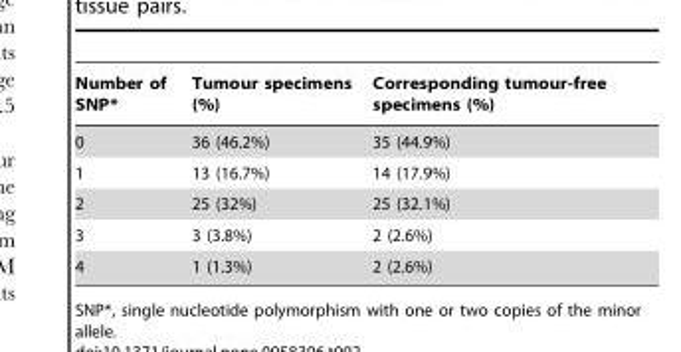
<table><thead><tr><td>Number of SNP*</td><td>Tumour specimens (%)</td><td>Corresponding tumour-free specimens (%)</td></tr></thead><tbody><tr><td>0</td><td>36 (46.2%)</td><td>35 (44.9%)</td></tr><tr><td>1</td><td>13 (16.7%)</td><td>14 (17.9%)</td></tr><tr><td>2</td><td>25 (32%)</td><td>25 (32.1%)</td></tr><tr><td>3</td><td>3 (3.8%)</td><td>2 (2.6%)</td></tr><tr><td>4</td><td>1 (1.3%)</td><td>2 (2.6%)</td></tr></tbody></table>